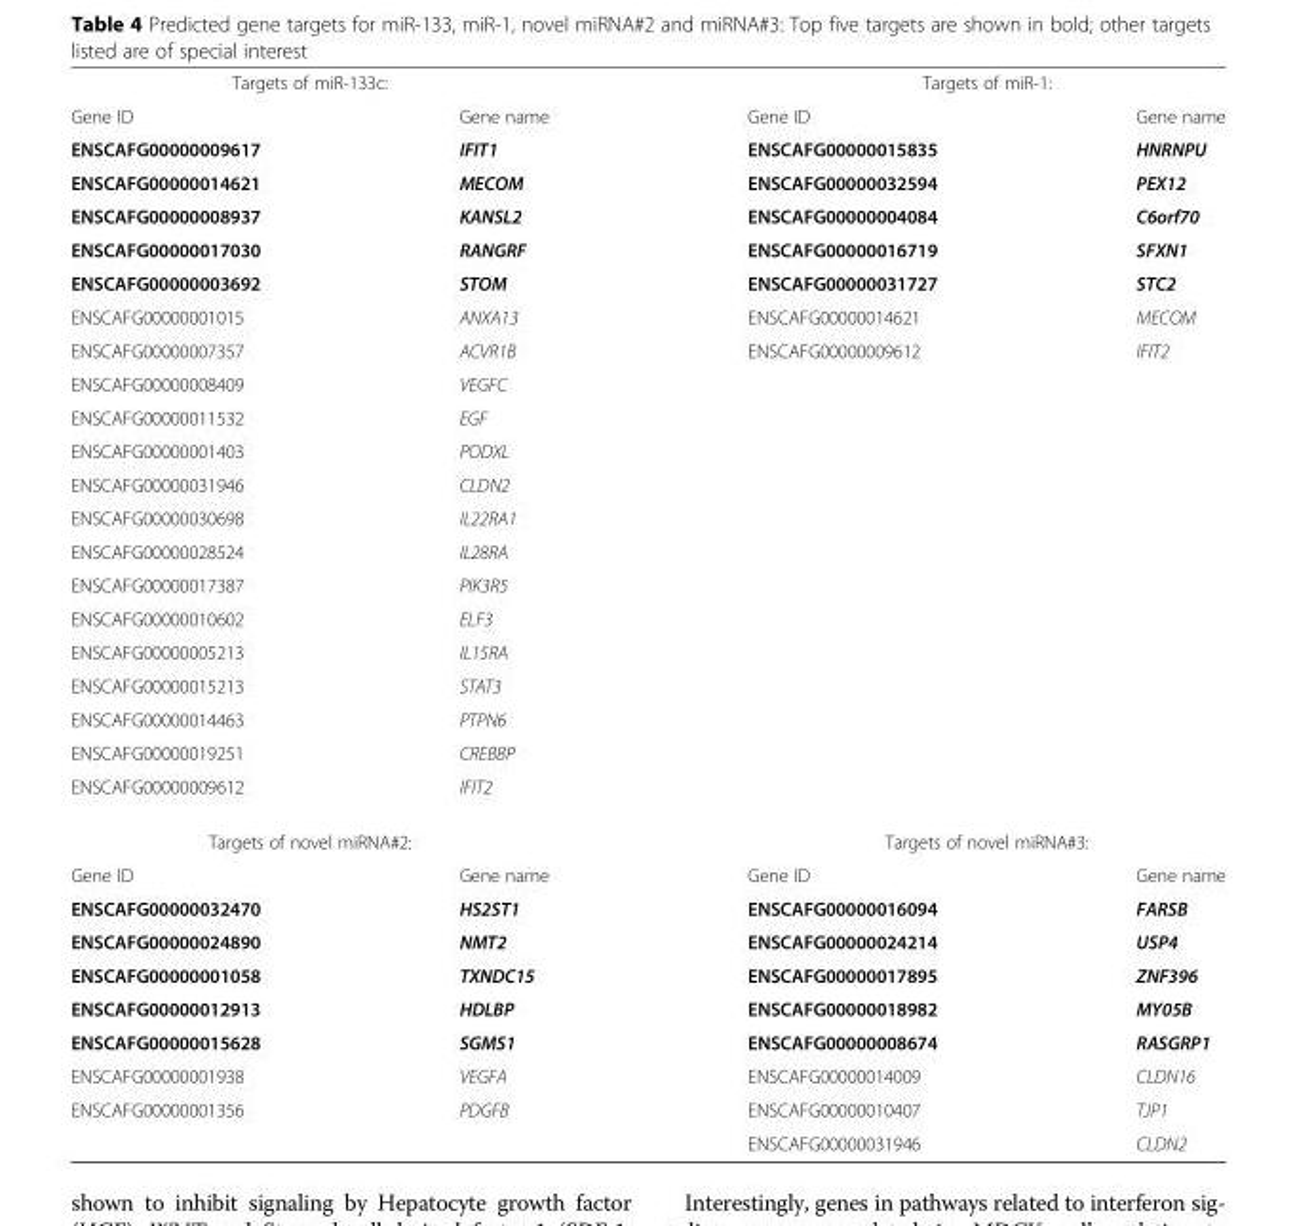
<table><tbody><tr><td colspan="2">Targets of miR-133c:</td><td colspan="2">Targets of miR-1:</td></tr><tr><td>Gene ID</td><td>Gene name</td><td>Gene ID</td><td>Gene name</td></tr><tr><td>ENSCAFG00000009617</td><td>IFIT1</td><td>ENSCAFG00000015835</td><td>HNRNPU</td></tr><tr><td>ENSCAFG00000014621</td><td>MECOM</td><td>ENSCAFG00000032594</td><td>PEX12</td></tr><tr><td>ENSCAFG00000008937</td><td>KANSL2</td><td>ENSCAFG00000004084</td><td>C6orf70</td></tr><tr><td>ENSCAFG00000017030</td><td>RANGRF</td><td>ENSCAFG00000016719</td><td>SFXN1</td></tr><tr><td>ENSCAFG00000003692</td><td>STOM</td><td>ENSCAFG00000031727</td><td>STC2</td></tr><tr><td>ENSCAFG00000001015</td><td>ANXA13</td><td>ENSCAFG00000014621</td><td>MECOM</td></tr><tr><td>ENSCAFG00000007357</td><td>ACVR1B</td><td>ENSCAFG00000009612</td><td>IFIT2</td></tr><tr><td>ENSCAFG00000008409</td><td>VEGFC</td><td></td><td></td></tr><tr><td>ENSCAFG00000011532</td><td>EGF</td><td></td><td></td></tr><tr><td>ENSCAFG00000001403</td><td>PODXL</td><td></td><td></td></tr><tr><td>ENSCAFG00000031946</td><td>CLDN2</td><td></td><td></td></tr><tr><td>ENSCAFG00000030698</td><td>IL22RA1</td><td></td><td></td></tr><tr><td>ENSCAFG00000028524</td><td>IL28RA</td><td></td><td></td></tr><tr><td>ENSCAFG00000017387</td><td>PIK3R5</td><td></td><td></td></tr><tr><td>ENSCAFG00000010602</td><td>ELF3</td><td></td><td></td></tr><tr><td>ENSCAFG00000005213</td><td>IL15RA</td><td></td><td></td></tr><tr><td>ENSCAFG00000015213</td><td>STAT3</td><td></td><td></td></tr><tr><td>ENSCAFG00000014463</td><td>PTPN6</td><td></td><td></td></tr><tr><td>ENSCAFG00000019251</td><td>CREBBP</td><td></td><td></td></tr><tr><td>ENSCAFG00000009612</td><td>IFIT2</td><td></td><td></td></tr><tr><td colspan="2">Targets of novel miRNA#2:</td><td colspan="2">Targets of novel miRNA#3:</td></tr><tr><td>Gene ID</td><td>Gene name</td><td>Gene ID</td><td>Gene name</td></tr><tr><td>ENSCAFG00000032470</td><td>HS2ST1</td><td>ENSCAFG00000016094</td><td>FARSB</td></tr><tr><td>ENSCAFG00000024890</td><td>NMT2</td><td>ENSCAFG00000024214</td><td>USP4</td></tr><tr><td>ENSCAFG00000001058</td><td>TXNDC15</td><td>ENSCAFG00000017895</td><td>ZNF396</td></tr><tr><td>ENSCAFG00000012913</td><td>HDLBP</td><td>ENSCAFG00000018982</td><td>MY05B</td></tr><tr><td>ENSCAFG00000015628</td><td>SGMS1</td><td>ENSCAFG00000008674</td><td>RASGRP1</td></tr><tr><td>ENSCAFG00000001938</td><td>VEGFA</td><td>ENSCAFG00000014009</td><td>CLDN16</td></tr><tr><td rowspan="2">ENSCAFG00000001356</td><td>PDGFB</td><td>ENSCAFG00000010407</td><td>TJP1</td></tr><tr><td></td><td>ENSCAFG00000031946</td><td>CLDN2</td></tr></tbody></table>